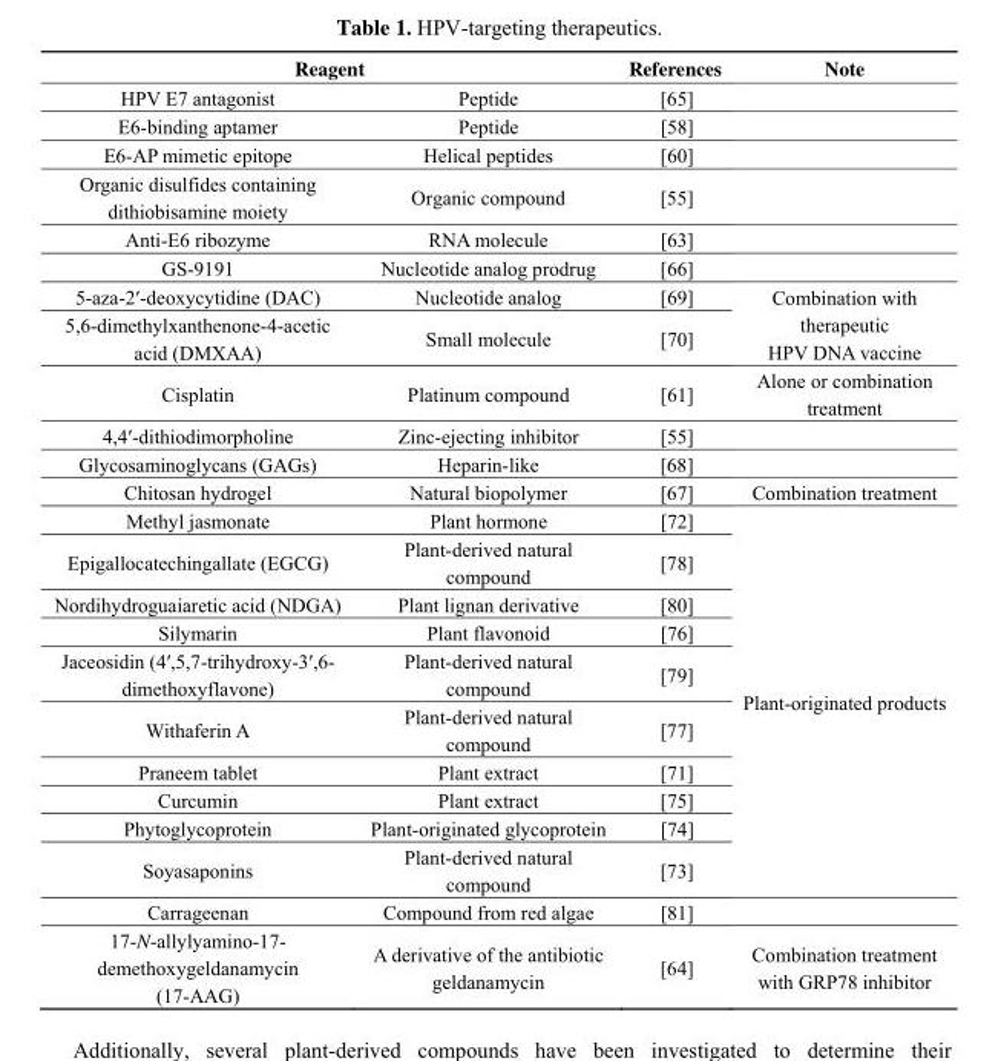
<table><thead><tr><td colspan="2">Reagent</td><td rowspan="2">References [65]</td><td rowspan="2">Note</td></tr><tr><td>HPV E7 antagonist</td><td>Peptide</td></tr></thead><tbody><tr><td>E6-binding aptamer</td><td>Peptide</td><td>[58]</td><td></td></tr><tr><td>E6-AP mimetic epitope</td><td>Helical peptides</td><td>[60]</td><td></td></tr><tr><td>Organic disulfides containing dithiobisamine moiety</td><td>Organic compound</td><td>[55]</td><td></td></tr><tr><td>Anti-E6 ribozyme</td><td>RNA molecule</td><td>[63]</td><td></td></tr><tr><td>GS-9191</td><td>Nucleotide analog prodrug</td><td>[66]</td><td></td></tr><tr><td>5-aza-2′-deoxycytidine (DAC)</td><td>Nucleotide analog</td><td>[69]</td><td rowspan="2">Combination with therapeutic HPV DNA vaccine</td></tr><tr><td>5,6-dimethylxanthenone-4-acetic acid (DMXAA)</td><td>Small molecule</td><td>[70]</td></tr><tr><td>Cisplatin</td><td>Platinum compound</td><td>[61]</td><td>Alone or combination treatment</td></tr><tr><td>4,4′-dithiodimorpholine</td><td>Zinc-ejecting inhibitor</td><td>[55]</td><td></td></tr><tr><td>Glycosaminoglycans (GAGs)</td><td>Heparin-like</td><td>[68]</td><td></td></tr><tr><td>Chitosan hydrogel</td><td>Natural biopolymer</td><td>[67]</td><td>Combination treatment</td></tr><tr><td>Methyl jasmonate</td><td>Plant hormone</td><td>[72]</td><td rowspan="10">Plant-originated products</td></tr><tr><td>Epigallocatechingallate (EGCG)</td><td>Plant-derived natural compound</td><td>[78]</td></tr><tr><td>Nordihydroguaiaretic acid (NDGA)</td><td>Plant lignan derivative</td><td>[80]</td></tr><tr><td>Silymarin</td><td>Plant flavonoid</td><td>[76]</td></tr><tr><td>Jaceosidin (4′,5,7-trihydroxy-3′,6- dimethoxyflavone)</td><td>Plant-derived natural compound</td><td>[79]</td></tr><tr><td>Withaferin A</td><td>Plant-derived natural compound</td><td>[77]</td></tr><tr><td>Praneem tablet</td><td>Plant extract</td><td>[71]</td></tr><tr><td>Curcumin</td><td>Plant extract</td><td>[75]</td></tr><tr><td>Phytoglycoprotein</td><td>Plant-originated glycoprotein</td><td>[74]</td></tr><tr><td>Soyasaponins</td><td>Plant-derived natural compound</td><td>[73]</td></tr><tr><td>Carrageenan</td><td>Compound from red algae</td><td>[81]</td><td></td></tr><tr><td>17-N-allylyamino-17- demethoxygeldanamycin (17-AAG)</td><td>A derivative of the antibiotic geldanamycin</td><td>[64]</td><td>Combination treatment with GRP78 inhibitor</td></tr></tbody></table>